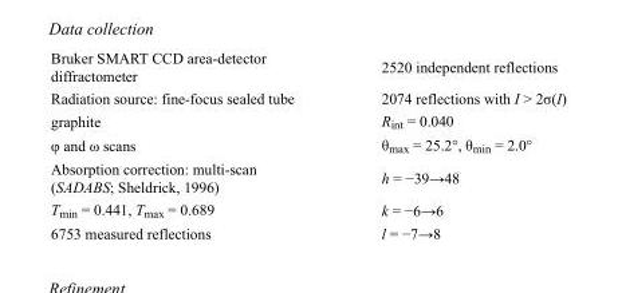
<table><tbody><tr><td>Bruker SMART CCD area-detector diffractometer</td><td>2520 independent reflections</td></tr><tr><td>Radiation source: fine-focus sealed tube</td><td>2074 reflections with I &gt; 2σ(I)</td></tr><tr><td>graphite</td><td>R<sub>int</sub> = 0.040</td></tr><tr><td>φ and ω scans</td><td>θ<sub>max</sub> = 25.2°, θ<sub>min</sub> = 2.0°</td></tr><tr><td>Absorption correction: multi-scan (SADABS; Sheldrick, 1996)</td><td>h = −39→48</td></tr><tr><td>T<sub>min</sub> = 0.441, T<sub>max</sub> = 0.689</td><td>k = −6→6</td></tr><tr><td>6753 measured reflections</td><td>l = −7→8</td></tr></tbody></table>